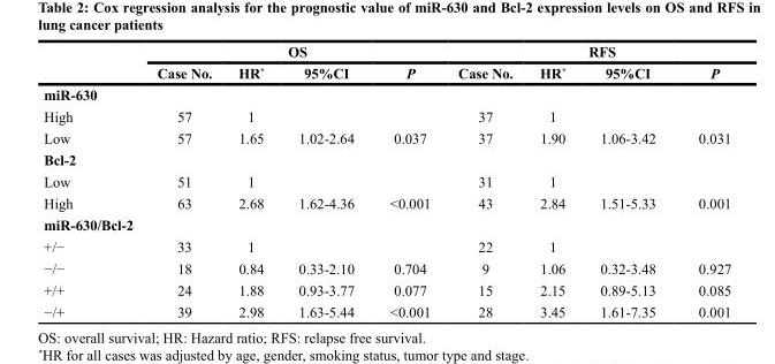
<table><thead><tr><td rowspan="2"></td><td colspan="4">OS</td><td colspan="4">RFS</td></tr><tr><td>Case No.</td><td>HR*</td><td>95%CI</td><td>P</td><td>Case No.</td><td>HR*</td><td>95%CI</td><td>P</td></tr></thead><tbody><tr><td colspan="9">miR-630</td></tr><tr><td>High</td><td>57</td><td>1</td><td></td><td></td><td>37</td><td>1</td><td></td><td></td></tr><tr><td>Low</td><td>57</td><td>1.65</td><td>1.02-2.64</td><td>0.037</td><td>37</td><td>1.90</td><td>1.06-3.42</td><td>0.031</td></tr><tr><td colspan="9">Bcl-2</td></tr><tr><td>Low</td><td>51</td><td>1</td><td></td><td></td><td>31</td><td>1</td><td></td><td></td></tr><tr><td>High</td><td>63</td><td>2.68</td><td>1.62-4.36</td><td>&lt;0.001</td><td>43</td><td>2.84</td><td>1.51-5.33</td><td>0.001</td></tr><tr><td colspan="9">miR-630/Bcl-2</td></tr><tr><td>+/−</td><td>33</td><td>1</td><td></td><td></td><td>22</td><td>1</td><td></td><td></td></tr><tr><td>−/−</td><td>18</td><td>0.84</td><td>0.33-2.10</td><td>0.704</td><td>9</td><td>1.06</td><td>0.32-3.48</td><td>0.927</td></tr><tr><td>+/+</td><td>24</td><td>1.88</td><td>0.93-3.77</td><td>0.077</td><td>15</td><td>2.15</td><td>0.89-5.13</td><td>0.085</td></tr><tr><td>−/+</td><td>39</td><td>2.98</td><td>1.63-5.44</td><td>&lt;0.001</td><td>28</td><td>3.45</td><td>1.61-7.35</td><td>0.001</td></tr></tbody></table>